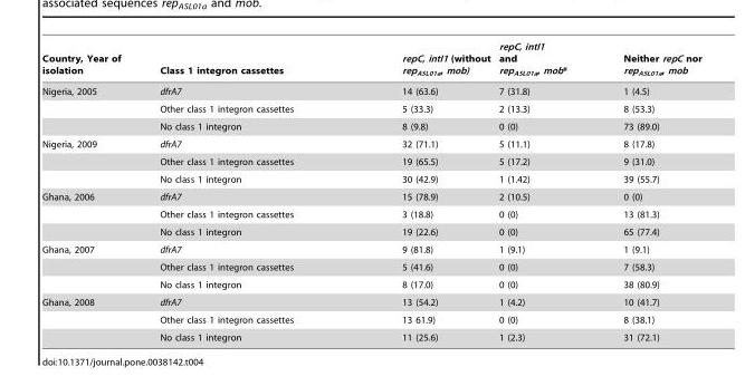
<table><thead><tr><td>Country, Year of isolation</td><td>Class 1 integron cassettes</td><td>repC, intI1 (without rep<sub>ASL01a</sub>, mob)</td><td>repC, intI1 and rep<sub>ASL01a</sub>, mob*</td><td>Neither repC nor rep<sub>ASL01a</sub>, mob</td></tr></thead><tbody><tr><td rowspan="3">Nigeria, 2005</td><td>dfrA7</td><td>14 (63.6)</td><td>7 (31.8)</td><td>1 (4.5)</td></tr><tr><td>Other class 1 integron cassettes</td><td>5 (33.3)</td><td>2 (13.3)</td><td>8 (53.3)</td></tr><tr><td>No class 1 integron</td><td>8 (9.8)</td><td>0 (0)</td><td>73 (89.0)</td></tr><tr><td rowspan="3">Nigeria, 2009</td><td>dfrA7</td><td>32 (71.1)</td><td>5 (11.1)</td><td>8 (17.8)</td></tr><tr><td>Other class 1 integron cassettes</td><td>19 (65.5)</td><td>5 (17.2)</td><td>9 (31.0)</td></tr><tr><td>No class 1 integron</td><td>30 (42.9)</td><td>1 (1.42)</td><td>39 (55.7)</td></tr><tr><td rowspan="3">Ghana, 2006</td><td>dfrA7</td><td>15 (78.9)</td><td>2 (10.5)</td><td>0 (0)</td></tr><tr><td>Other class 1 integron cassettes</td><td>3 (18.8)</td><td>0 (0)</td><td>13 (81.3)</td></tr><tr><td>No class 1 integron</td><td>19 (22.6)</td><td>0 (0)</td><td>65 (77.4)</td></tr><tr><td rowspan="3">Ghana, 2007</td><td>dfrA7</td><td>9 (81.8)</td><td>1 (9.1)</td><td>1 (9.1)</td></tr><tr><td>Other class 1 integron cassettes</td><td>5 (41.6)</td><td>0 (0)</td><td>7 (58.3)</td></tr><tr><td>No class 1 integron</td><td>8 (17.0)</td><td>0 (0)</td><td>38 (80.9)</td></tr><tr><td rowspan="3">Ghana, 2008</td><td>dfrA7</td><td>13 (54.2)</td><td>1 (4.2)</td><td>10 (41.7)</td></tr><tr><td>Other class 1 integron cassettes</td><td>13 61.9)</td><td>0 (0)</td><td>8 (38.1)</td></tr><tr><td>No class 1 integron</td><td>11 (25.6)</td><td>1 (2.3)</td><td>31 (72.1)</td></tr></tbody></table>